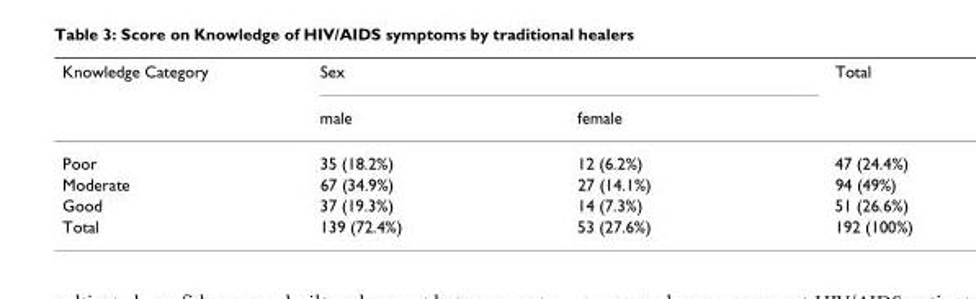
<table><thead><tr><td rowspan="2">Knowledge Category</td><td colspan="2">Sex</td><td rowspan="2">Total</td></tr><tr><td>male</td><td>female</td></tr></thead><tbody><tr><td>Poor</td><td>35 (18.2%)</td><td>12 (6.2%)</td><td>47 (24.4%)</td></tr><tr><td>Moderate</td><td>67 (34.9%)</td><td>27 (14.1%)</td><td>94 (49%)</td></tr><tr><td>Good</td><td>37 (19.3%)</td><td>14 (7.3%)</td><td>51 (26.6%)</td></tr><tr><td>Total</td><td>139 (72.4%)</td><td>53 (27.6%)</td><td>192 (100%)</td></tr></tbody></table>